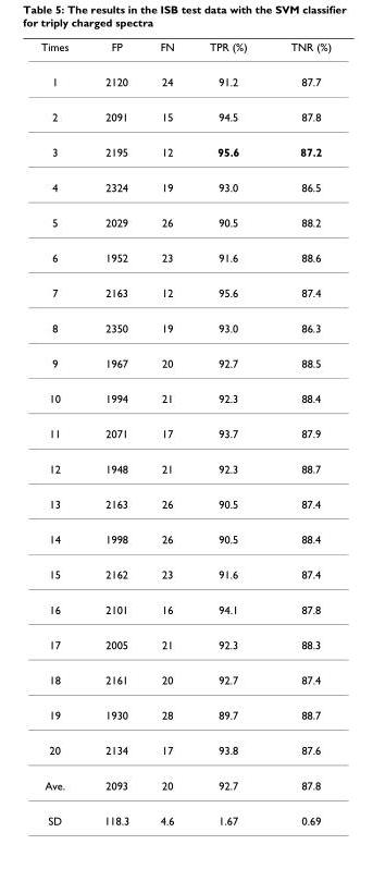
<table><thead><tr><td>Times</td><td>FP</td><td>FN</td><td>TPR (%)</td><td>TNR (%)</td></tr></thead><tbody><tr><td>1</td><td>2120</td><td>24</td><td>91.2</td><td>87.7</td></tr><tr><td>2</td><td>2091</td><td>15</td><td>94.5</td><td>87.8</td></tr><tr><td>3</td><td>2195</td><td>12</td><td>95.6</td><td>87.2</td></tr><tr><td>4</td><td>2324</td><td>19</td><td>93.0</td><td>86.5</td></tr><tr><td>5</td><td>2029</td><td>26</td><td>90.5</td><td>88.2</td></tr><tr><td>6</td><td>1952</td><td>23</td><td>91.6</td><td>88.6</td></tr><tr><td>7</td><td>2163</td><td>12</td><td>95.6</td><td>87.4</td></tr><tr><td>8</td><td>2350</td><td>19</td><td>93.0</td><td>86.3</td></tr><tr><td>9</td><td>1967</td><td>20</td><td>92.7</td><td>88.5</td></tr><tr><td>10</td><td>1994</td><td>21</td><td>92.3</td><td>88.4</td></tr><tr><td>11</td><td>2071</td><td>17</td><td>93.7</td><td>87.9</td></tr><tr><td>12</td><td>1948</td><td>21</td><td>92.3</td><td>88.7</td></tr><tr><td>13</td><td>2163</td><td>26</td><td>90.5</td><td>87.4</td></tr><tr><td>14</td><td>1998</td><td>26</td><td>90.5</td><td>88.4</td></tr><tr><td>15</td><td>2162</td><td>23</td><td>91.6</td><td>87.4</td></tr><tr><td>16</td><td>2101</td><td>16</td><td>94.1</td><td>87.8</td></tr><tr><td>17</td><td>2005</td><td>21</td><td>92.3</td><td>88.3</td></tr><tr><td>18</td><td>2161</td><td>20</td><td>92.7</td><td>87.4</td></tr><tr><td>19</td><td>1930</td><td>28</td><td>89.7</td><td>88.7</td></tr><tr><td>20</td><td>2134</td><td>17</td><td>93.8</td><td>87.6</td></tr><tr><td>Ave.</td><td>2093</td><td>20</td><td>92.7</td><td>87.8</td></tr><tr><td>SD</td><td>118.3</td><td>4.6</td><td>1.67</td><td>0.69</td></tr></tbody></table>